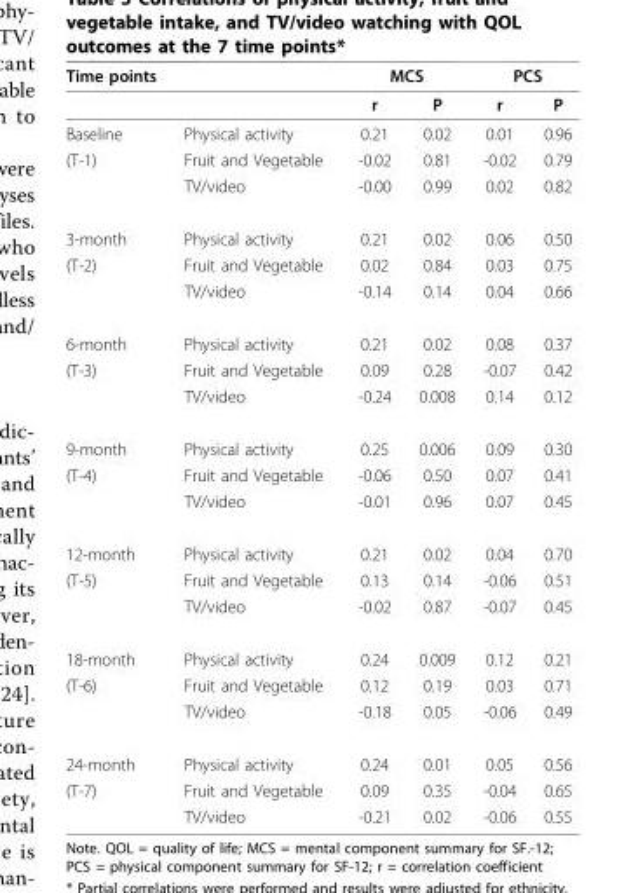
<table><thead><tr><td rowspan="2">Time points</td><td rowspan="2"></td><td colspan="2">MCS</td><td colspan="2">PCS</td></tr><tr><td>r</td><td>P</td><td>r</td><td>P</td></tr></thead><tbody><tr><td>Baseline</td><td>Physical activity</td><td>0.21</td><td>0.02</td><td>0.01</td><td>0.96</td></tr><tr><td rowspan="2">(T-1)</td><td>Fruit and Vegetable</td><td>-0.02</td><td>0.81</td><td>-0.02</td><td>0.79</td></tr><tr><td>TV/video</td><td>-0.00</td><td>0.99</td><td>0.02</td><td>0.82</td></tr><tr><td>3-month</td><td>Physical activity</td><td>0.21</td><td>0.02</td><td>0.06</td><td>0.50</td></tr><tr><td rowspan="2">(T-2)</td><td>Fruit and Vegetable</td><td>0.02</td><td>0.84</td><td>0.03</td><td>0.75</td></tr><tr><td>TV/video</td><td>-0.14</td><td>0.14</td><td>0.04</td><td>0.66</td></tr><tr><td>6-month</td><td>Physical activity</td><td>0.21</td><td>0.02</td><td>0.08</td><td>0.37</td></tr><tr><td rowspan="2">(T-3)</td><td>Fruit and Vegetable</td><td>0.09</td><td>0.28</td><td>-0.07</td><td>0.42</td></tr><tr><td>TV/video</td><td>-0.24</td><td>0.008</td><td>0.14</td><td>0.12</td></tr><tr><td>9-month</td><td>Physical activity</td><td>0.25</td><td>0.006</td><td>0.09</td><td>0.30</td></tr><tr><td rowspan="2">(T-4)</td><td>Fruit and Vegetable</td><td>-0.06</td><td>0.50</td><td>0.07</td><td>0.41</td></tr><tr><td>TV/video</td><td>-0.01</td><td>0.96</td><td>0.07</td><td>0.45</td></tr><tr><td>12-month</td><td>Physical activity</td><td>0.21</td><td>0.02</td><td>0.04</td><td>0.70</td></tr><tr><td rowspan="2">(T-5)</td><td>Fruit and Vegetable</td><td>0.13</td><td>0.14</td><td>-0.06</td><td>0.51</td></tr><tr><td>TV/video</td><td>-0.02</td><td>0.87</td><td>-0.07</td><td>0.45</td></tr><tr><td>18-month</td><td>Physical activity</td><td>0.24</td><td>0.009</td><td>0.12</td><td>0.21</td></tr><tr><td rowspan="2">(T-6)</td><td>Fruit and Vegetable</td><td>0.12</td><td>0.19</td><td>0.03</td><td>0.71</td></tr><tr><td>TV/video</td><td>-0.18</td><td>0.05</td><td>-0.06</td><td>0.49</td></tr><tr><td>24-month</td><td>Physical activity</td><td>0.24</td><td>0.01</td><td>0.05</td><td>0.56</td></tr><tr><td rowspan="2">(T-7)</td><td>Fruit and Vegetable</td><td>0.09</td><td>0.35</td><td>-0.04</td><td>0.65</td></tr><tr><td>TV/video</td><td>-0.21</td><td>0.02</td><td>-0.06</td><td>0.55</td></tr></tbody></table>